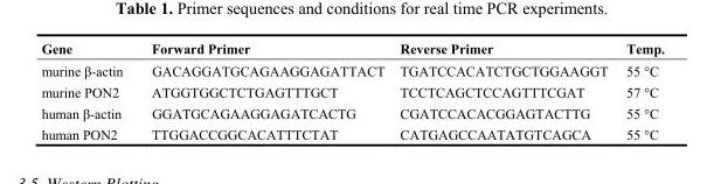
<table><thead><tr><td>Gene</td><td>Forward Primer</td><td>Reverse Primer</td><td>Temp.</td></tr></thead><tbody><tr><td>murine β-actin</td><td>GACAGGATGCAGAAGGAGATTACT</td><td>TGATCCACATCTGCTGGAAGGT</td><td>55 °C</td></tr><tr><td>murine PON2</td><td>ATGGTGGCTCTGAGTTTGCT</td><td>TCCTCAGCTCCAGTTTCGAT</td><td>57 °C</td></tr><tr><td>human β-actin</td><td>GGATGCAGAAGGAGATCACTG</td><td>CGATCCACACGGAGTACTTG</td><td>55 °C</td></tr><tr><td>human PON2</td><td>TTGGACCGGCACATTTCTAT</td><td>CATGAGCCAATATGTCAGCA</td><td>55 °C</td></tr></tbody></table>